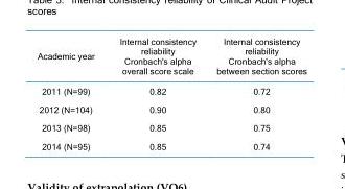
<table><thead><tr><td>Academic year</td><td>Internal consistency reliability Cronbach&#x27;s alpha overall score scale</td><td>Internal consistency reliability Cronbach&#x27;s alpha between section scores</td></tr></thead><tbody><tr><td>2011 (N=99)</td><td>0.82</td><td>0.72</td></tr><tr><td>2012 (N=104)</td><td>0.90</td><td>0.80</td></tr><tr><td>2013 (N=98)</td><td>0.85</td><td>0.75</td></tr><tr><td>2014 (N=95)</td><td>0.85</td><td>0.74</td></tr></tbody></table>